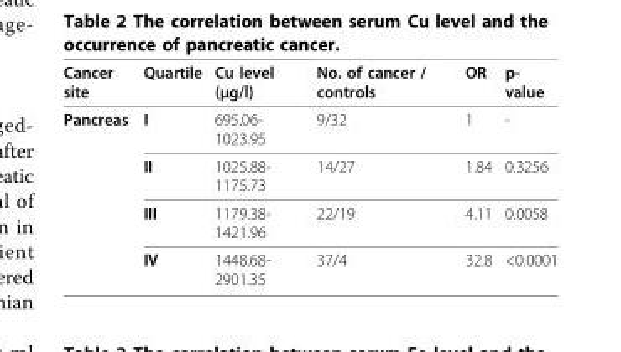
<table><thead><tr><td>Cancer site</td><td>Quartile</td><td>Cu level (µg/l)</td><td>No. of cancer / controls</td><td>OR</td><td>p- value</td></tr></thead><tbody><tr><td rowspan="4">Pancreas</td><td>I</td><td>695.06- 1023.95</td><td>9/32</td><td>1</td><td>-</td></tr><tr><td>II</td><td>1025.88- 1175.73</td><td>14/27</td><td>1.84</td><td>0.3256</td></tr><tr><td>III</td><td>1179.38- 1421.96</td><td>22/19</td><td>4.11</td><td>0.0058</td></tr><tr><td>IV</td><td>1448.68- 2901.35</td><td>37/4</td><td>32.8</td><td>&lt;0.0001</td></tr></tbody></table>